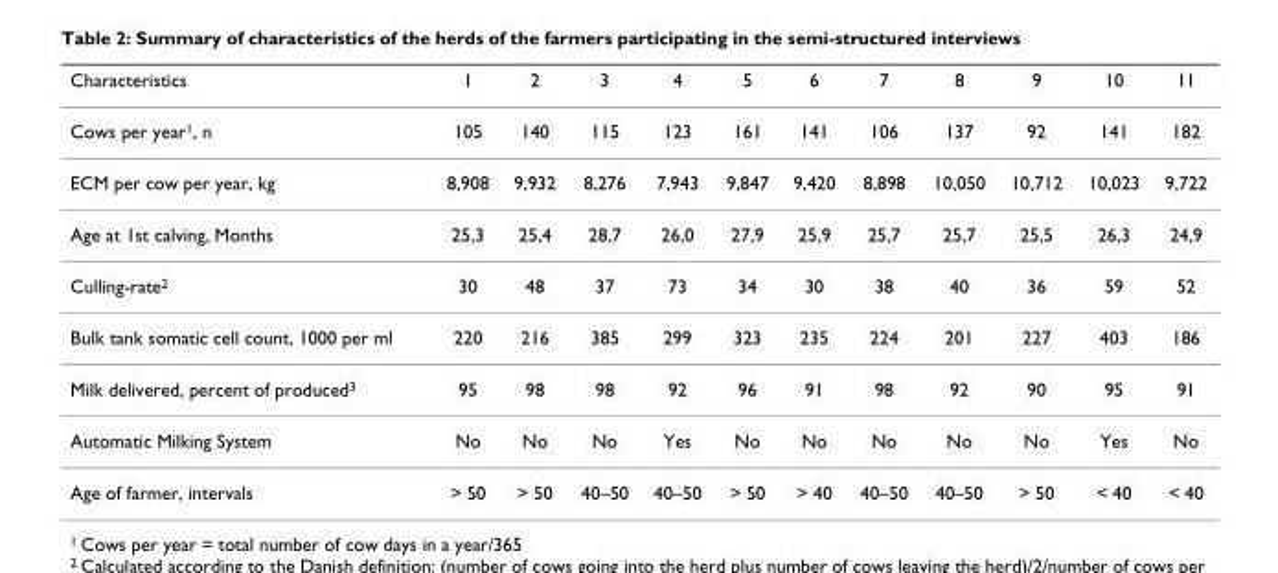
<table><thead><tr><td>Characteristics</td><td>1</td><td>2</td><td>3</td><td>4</td><td>5</td><td>6</td><td>7</td><td>8</td><td>9</td><td>10</td><td>11</td></tr></thead><tbody><tr><td>Cows per year<sup>1</sup>, n</td><td>105</td><td>140</td><td>115</td><td>123</td><td>161</td><td>141</td><td>106</td><td>137</td><td>92</td><td>141</td><td>182</td></tr><tr><td>ECM per cow per year, kg</td><td>8,908</td><td>9,932</td><td>8,276</td><td>7,943</td><td>9,847</td><td>9,420</td><td>8,898</td><td>10,050</td><td>10,712</td><td>10,023</td><td>9,722</td></tr><tr><td>Age at 1st calving, Months</td><td>25,3</td><td>25,4</td><td>28,7</td><td>26,0</td><td>27,9</td><td>25,9</td><td>25,7</td><td>25,7</td><td>25,5</td><td>26,3</td><td>24,9</td></tr><tr><td>Culling-rate<sup>2</sup></td><td>30</td><td>48</td><td>37</td><td>73</td><td>34</td><td>30</td><td>38</td><td>40</td><td>36</td><td>59</td><td>52</td></tr><tr><td>Bulk tank somatic cell count, 1000 per ml</td><td>220</td><td>216</td><td>385</td><td>299</td><td>323</td><td>235</td><td>224</td><td>201</td><td>227</td><td>403</td><td>186</td></tr><tr><td>Milk delivered, percent of produced<sup>3</sup></td><td>95</td><td>98</td><td>98</td><td>92</td><td>96</td><td>91</td><td>98</td><td>92</td><td>90</td><td>95</td><td>91</td></tr><tr><td>Automatic Milking System</td><td>No</td><td>No</td><td>No</td><td>Yes</td><td>No</td><td>No</td><td>No</td><td>No</td><td>No</td><td>Yes</td><td>No</td></tr><tr><td>Age of farmer, intervals</td><td>&gt; 50</td><td>&gt; 50</td><td>40–50</td><td>40–50</td><td>&gt; 50</td><td>&gt; 40</td><td>40–50</td><td>40–50</td><td>&gt; 50</td><td>&lt; 40</td><td>&lt; 40</td></tr></tbody></table>